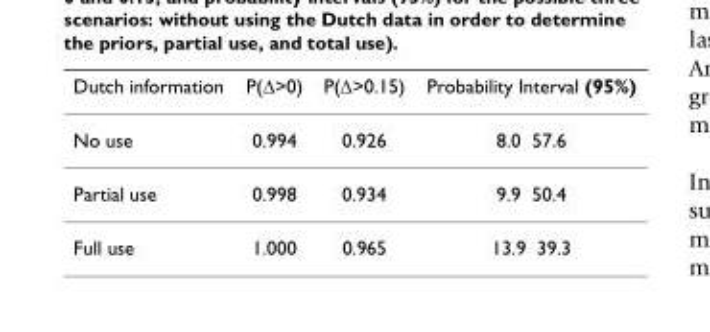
<table><thead><tr><td>Dutch information</td><td>P(Δ&gt;0)</td><td>P(Δ&gt;0.15)</td><td>Probability Interval (95%)</td></tr></thead><tbody><tr><td>No use</td><td>0.994</td><td>0.926</td><td>8.0 57.6</td></tr><tr><td>Partial use</td><td>0.998</td><td>0.934</td><td>9.9 50.4</td></tr><tr><td>Full use</td><td>1.000</td><td>0.965</td><td>13.9 39.3</td></tr></tbody></table>